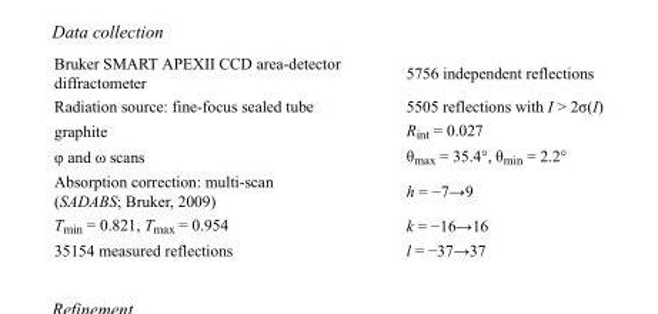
<table><tbody><tr><td>Bruker SMART APEXII CCD area-detector diffractometer</td><td>5756 independent reflections</td></tr><tr><td>Radiation source: fine-focus sealed tube</td><td>5505 reflections with I &gt; 2σ(I)</td></tr><tr><td>graphite</td><td>R<sub>int</sub> = 0.027</td></tr><tr><td>φ and ω scans</td><td>θ<sub>max</sub> = 35.4°, θ<sub>min</sub> = 2.2°</td></tr><tr><td>Absorption correction: multi-scan (SADABS; Bruker, 2009)</td><td>h = −7→9</td></tr><tr><td>T<sub>min</sub> = 0.821, T<sub>max</sub> = 0.954</td><td>k = −16→16</td></tr><tr><td>35154 measured reflections</td><td>l = −37→37</td></tr></tbody></table>